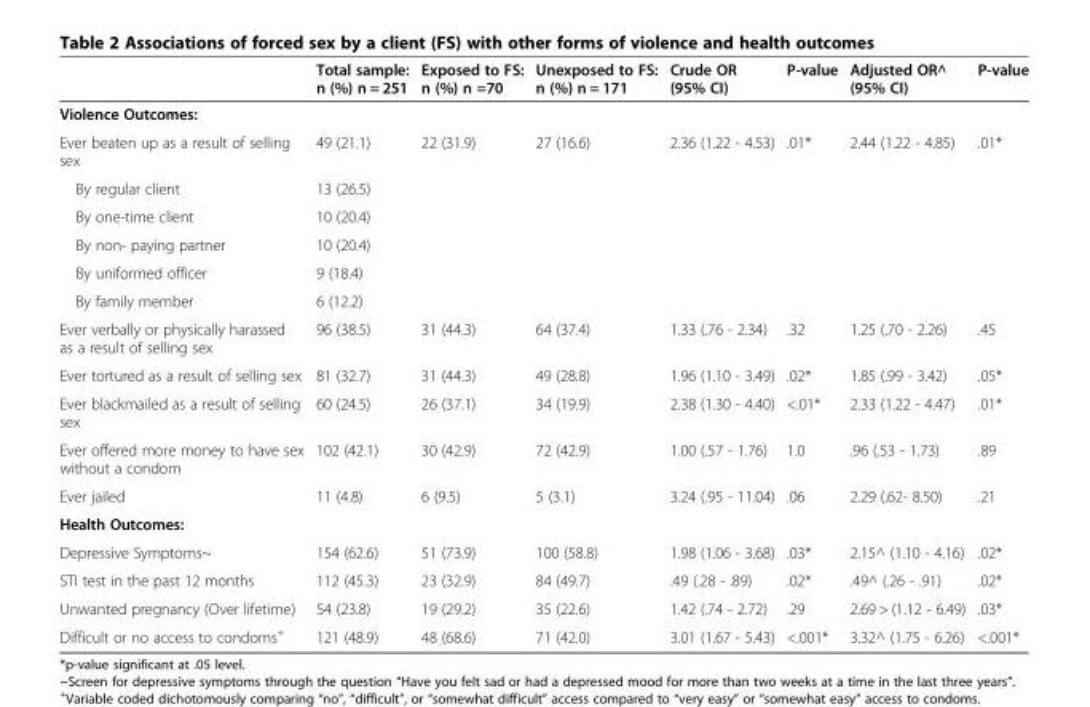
<table><thead><tr><td></td><td>Total sample: n (%) n = 251</td><td>Exposed to FS: n (%) n =70</td><td>Unexposed to FS: n (%) n = 171</td><td>Crude OR (95% CI)</td><td>P-value</td><td>Adjusted OR^ (95% CI)</td><td>P-value</td></tr></thead><tbody><tr><td colspan="8">Violence Outcomes:</td></tr><tr><td>Ever beaten up as a result of selling sex</td><td>49 (21.1)</td><td>22 (31.9)</td><td>27 (16.6)</td><td>2.36 (1.22 - 4.53)</td><td>.01*</td><td>2.44 (1.22 - 4.85)</td><td>.01*</td></tr><tr><td>By regular client</td><td>13 (26.5)</td><td></td><td></td><td></td><td></td><td></td><td></td></tr><tr><td>By one-time client</td><td>10 (20.4)</td><td></td><td></td><td></td><td></td><td></td><td></td></tr><tr><td>By non- paying partner</td><td>10 (20.4)</td><td></td><td></td><td></td><td></td><td></td><td></td></tr><tr><td>By uniformed officer</td><td>9 (18.4)</td><td></td><td></td><td></td><td></td><td></td><td></td></tr><tr><td>By family member</td><td>6 (12.2)</td><td></td><td></td><td></td><td></td><td></td><td></td></tr><tr><td>Ever verbally or physically harassed as a result of selling sex</td><td>96 (38.5)</td><td>31 (44.3)</td><td>64 (37.4)</td><td>1.33 (.76 - 2.34)</td><td>.32</td><td>1.25 (.70 - 2.26)</td><td>.45</td></tr><tr><td>Ever tortured as a result of selling sex</td><td>81 (32.7)</td><td>31 (44.3)</td><td>49 (28.8)</td><td>1.96 (1.10 - 3.49)</td><td>.02*</td><td>1.85 (.99 - 3.42)</td><td>.05*</td></tr><tr><td>Ever blackmailed as a result of selling sex</td><td>60 (24.5)</td><td>26 (37.1)</td><td>34 (19.9)</td><td>2.38 (1.30 - 4.40)</td><td>&lt;.01*</td><td>2.33 (1.22 - 4.47)</td><td>.01*</td></tr><tr><td>Ever offered more money to have sex without a condom</td><td>102 (42.1)</td><td>30 (42.9)</td><td>72 (42.9)</td><td>1.00 (.57 - 1.76)</td><td>1.0</td><td>.96 (.53 - 1.73)</td><td>.89</td></tr><tr><td>Ever jailed</td><td>11 (4.8)</td><td>6 (9.5)</td><td>5 (3.1)</td><td>3.24 (.95 - 11.04)</td><td>.06</td><td>2.29 (.62- 8.50)</td><td>.21</td></tr><tr><td colspan="8">Health Outcomes:</td></tr><tr><td>Depressive Symptoms~</td><td>154 (62.6)</td><td>51 (73.9)</td><td>100 (58.8)</td><td>1.98 (1.06 - 3.68)</td><td>.03*</td><td>2.15^ (1.10 - 4.16)</td><td>.02*</td></tr><tr><td>STI test in the past 12 months</td><td>112 (45.3)</td><td>23 (32.9)</td><td>84 (49.7)</td><td>.49 (.28 - .89)</td><td>.02*</td><td>.49^ (.26 - .91)</td><td>.02*</td></tr><tr><td>Unwanted pregnancy (Over lifetime)</td><td>54 (23.8)</td><td>19 (29.2)</td><td>35 (22.6)</td><td>1.42 (.74 - 2.72)</td><td>.29</td><td>2.69 &gt; (1.12 - 6.49)</td><td>.03*</td></tr><tr><td>Difficult or no access to condoms<sup>+</sup></td><td>121 (48.9)</td><td>48 (68.6)</td><td>71 (42.0)</td><td>3.01 (1.67 - 5.43)</td><td>&lt;.001*</td><td>3.32^ (1.75 - 6.26)</td><td>&lt;.001*</td></tr></tbody></table>